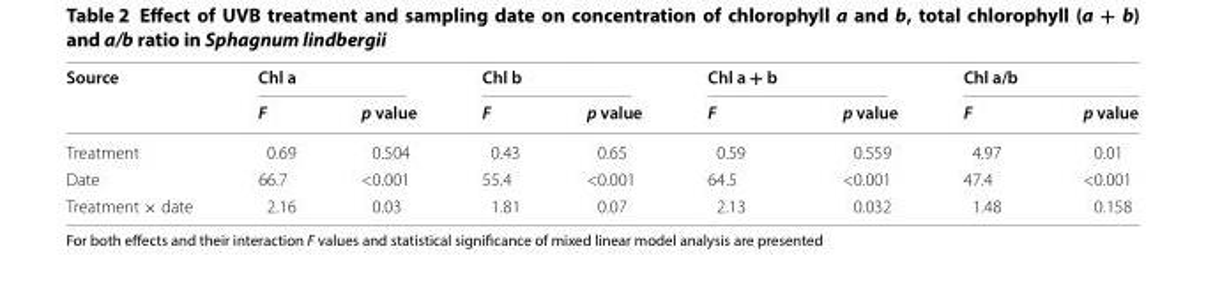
<table><thead><tr><td rowspan="2">Source</td><td colspan="2">Chl a</td><td colspan="2">Chl b</td><td colspan="2">Chl a + b</td><td colspan="2">Chl a/b</td></tr><tr><td>F</td><td>p value</td><td>F</td><td>p value</td><td>F</td><td>p value</td><td>F</td><td>p value</td></tr></thead><tbody><tr><td>Treatment</td><td>0.69</td><td>0.504</td><td>0.43</td><td>0.65</td><td>0.59</td><td>0.559</td><td>4.97</td><td>0.01</td></tr><tr><td>Date</td><td>66.7</td><td>&lt;0.001</td><td>55.4</td><td>&lt;0.001</td><td>64.5</td><td>&lt;0.001</td><td>47.4</td><td>&lt;0.001</td></tr><tr><td>Treatment × date</td><td>2.16</td><td>0.03</td><td>1.81</td><td>0.07</td><td>2.13</td><td>0.032</td><td>1.48</td><td>0.158</td></tr></tbody></table>